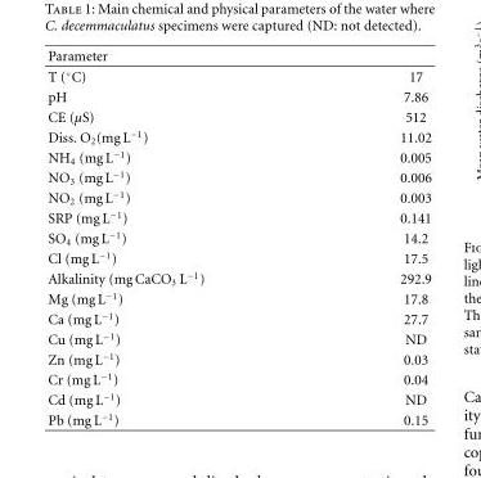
<table><thead><tr><td>Parameter</td><td></td></tr></thead><tbody><tr><td>T (◦C)</td><td>17</td></tr><tr><td>pH</td><td>7.86</td></tr><tr><td>CE (µS)</td><td>512</td></tr><tr><td>Diss. O<sub>2</sub>(mg L<sup>−1</sup>)</td><td>11.02</td></tr><tr><td>NH<sub>4</sub> (mg L<sup>−1</sup>)</td><td>0.005</td></tr><tr><td>NO<sub>3</sub> (mg L<sup>−1</sup>)</td><td>0.006</td></tr><tr><td>NO<sub>2</sub> (mg L<sup>−1</sup>)</td><td>0.003</td></tr><tr><td>SRP (mg L<sup>−1</sup>)</td><td>0.141</td></tr><tr><td>SO<sub>4</sub> (mg L<sup>−1</sup>)</td><td>14.2</td></tr><tr><td>Cl (mg L<sup>−1</sup>)</td><td>17.5</td></tr><tr><td>Alkalinity (mg CaCO<sub>3</sub> L<sup>−1</sup>)</td><td>292.9</td></tr><tr><td>Mg (mg L<sup>−1</sup>)</td><td>17.8</td></tr><tr><td>Ca (mg L<sup>−1</sup>)</td><td>27.7</td></tr><tr><td>Cu (mg L<sup>−1</sup>)</td><td>ND</td></tr><tr><td>Zn (mg L<sup>−1</sup>)</td><td>0.03</td></tr><tr><td>Cr (mg L<sup>−1</sup>)</td><td>0.04</td></tr><tr><td>Cd (mg L<sup>−1</sup>)</td><td>ND</td></tr><tr><td>Pb (mg L<sup>−1</sup>)</td><td>0.15</td></tr></tbody></table>